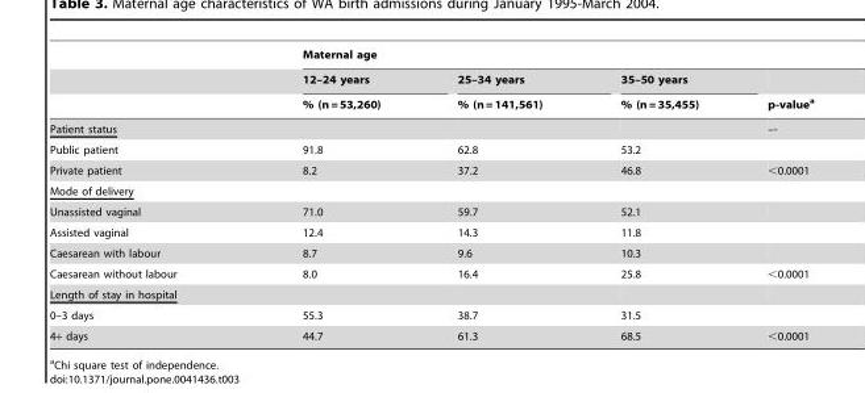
<table><thead><tr><td rowspan="3"></td><td colspan="4">Maternal age</td></tr><tr><td rowspan="2">12–24 years % (n = 53,260)</td><td rowspan="2">25–34 years % (n = 141,561)</td><td rowspan="2">35–50 years % (n = 35,455)</td><td rowspan="2">p-value<sup>a</sup></td></tr><tr></tr></thead><tbody><tr><td>Patient status</td><td></td><td></td><td></td><td>–-</td></tr><tr><td>Public patient</td><td>91.8</td><td>62.8</td><td>53.2</td><td></td></tr><tr><td>Private patient</td><td>8.2</td><td>37.2</td><td>46.8</td><td>&lt;0.0001</td></tr><tr><td colspan="5">Mode of delivery</td></tr><tr><td>Unassisted vaginal</td><td>71.0</td><td>59.7</td><td>52.1</td><td></td></tr><tr><td>Assisted vaginal</td><td>12.4</td><td>14.3</td><td>11.8</td><td></td></tr><tr><td>Caesarean with labour</td><td>8.7</td><td>9.6</td><td>10.3</td><td></td></tr><tr><td>Caesarean without labour</td><td>8.0</td><td>16.4</td><td>25.8</td><td>&lt;0.0001</td></tr><tr><td colspan="5">Length of stay in hospital</td></tr><tr><td>0–3 days</td><td>55.3</td><td>38.7</td><td>31.5</td><td></td></tr><tr><td>4+ days</td><td>44.7</td><td>61.3</td><td>68.5</td><td>&lt;0.0001</td></tr></tbody></table>